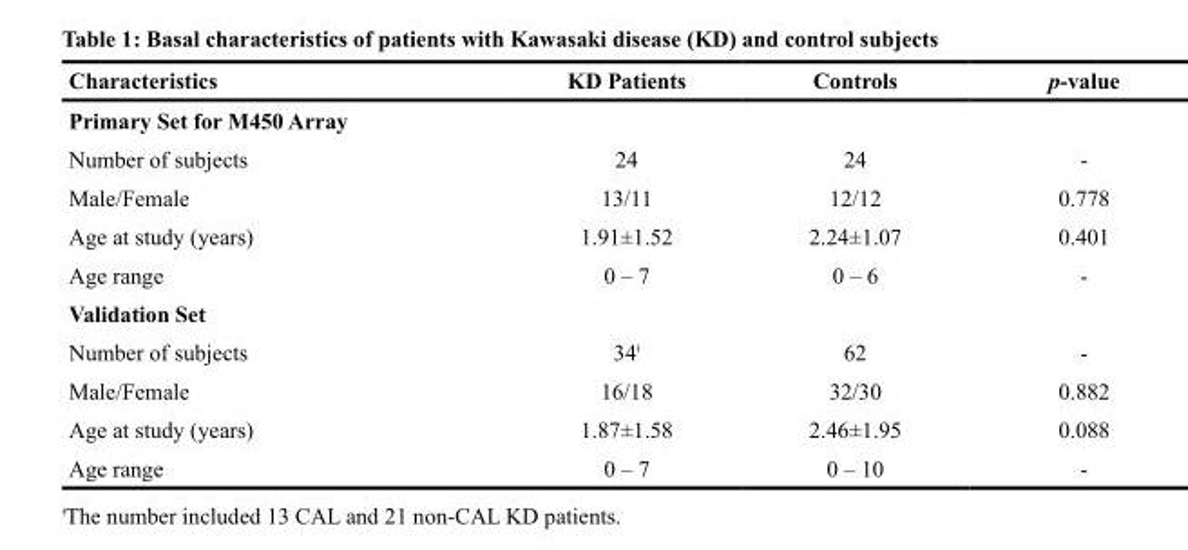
<table><thead><tr><td>Characteristics</td><td>KD Patients</td><td>Controls</td><td>p-value</td></tr></thead><tbody><tr><td colspan="4">Primary Set for M450 Array</td></tr><tr><td>Number of subjects</td><td>24</td><td>24</td><td>-</td></tr><tr><td>Male/Female</td><td>13/11</td><td>12/12</td><td>0.778</td></tr><tr><td>Age at study (years)</td><td>1.91±1.52</td><td>2.24±1.07</td><td>0.401</td></tr><tr><td>Age range</td><td>0 – 7</td><td>0 – 6</td><td>-</td></tr><tr><td colspan="4">Validation Set</td></tr><tr><td>Number of subjects</td><td>34<sup>ǂ</sup></td><td>62</td><td>-</td></tr><tr><td>Male/Female</td><td>16/18</td><td>32/30</td><td>0.882</td></tr><tr><td>Age at study (years)</td><td>1.87±1.58</td><td>2.46±1.95</td><td>0.088</td></tr><tr><td>Age range</td><td>0 – 7</td><td>0 – 10</td><td>-</td></tr></tbody></table>